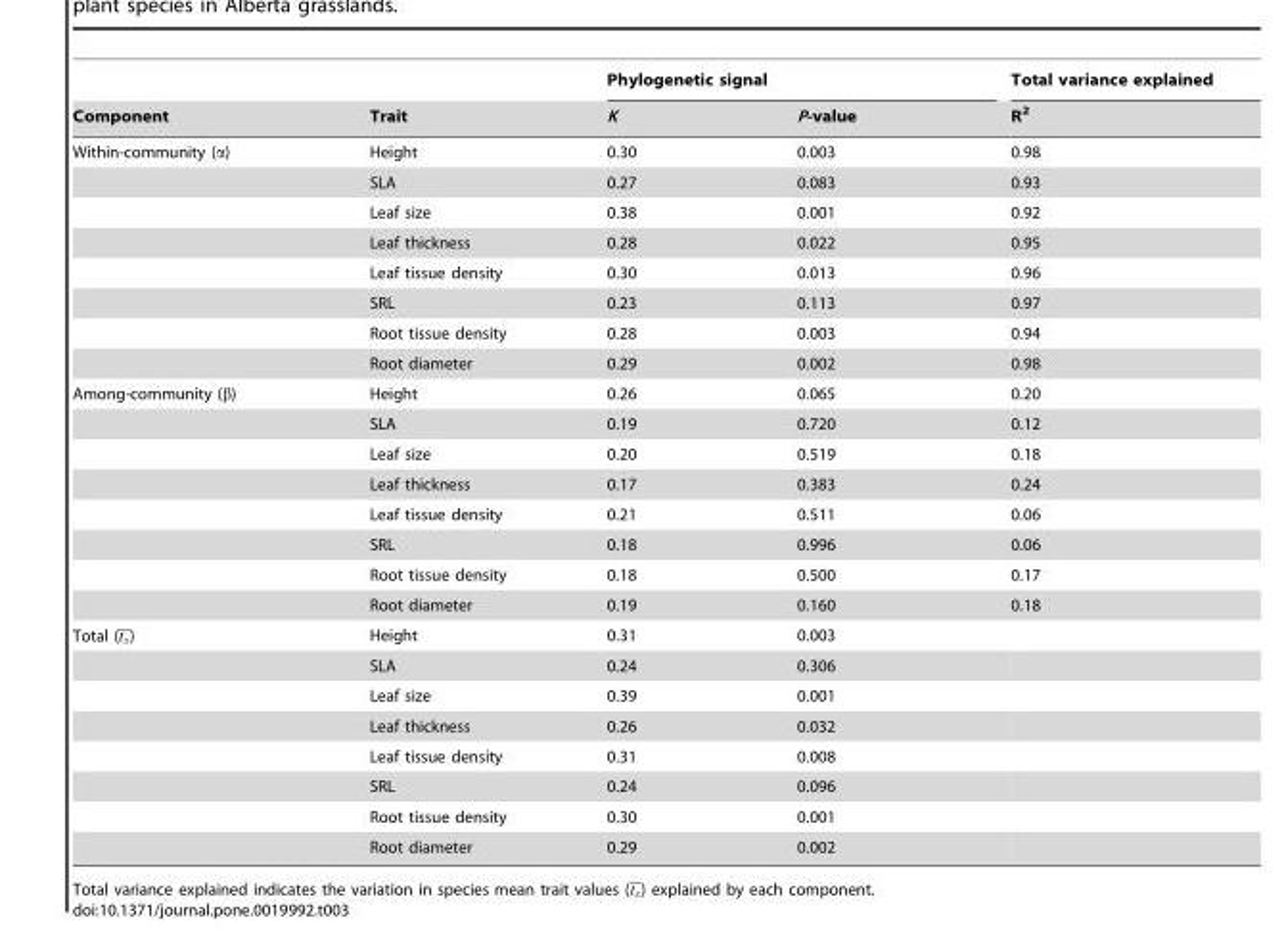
<table><thead><tr><td rowspan="2">Component</td><td rowspan="2">Trait</td><td colspan="2">Phylogenetic signal</td><td rowspan="2">Total variance explained R<sup>2</sup></td></tr><tr><td>K</td><td>P-value</td></tr></thead><tbody><tr><td rowspan="8">Within-community (α)</td><td>Height</td><td>0.30</td><td>0.003</td><td>0.98</td></tr><tr><td>SLA</td><td>0.27</td><td>0.083</td><td>0.93</td></tr><tr><td>Leaf size</td><td>0.38</td><td>0.001</td><td>0.92</td></tr><tr><td>Leaf thickness</td><td>0.28</td><td>0.022</td><td>0.95</td></tr><tr><td>Leaf tissue density</td><td>0.30</td><td>0.013</td><td>0.96</td></tr><tr><td>SRL</td><td>0.23</td><td>0.113</td><td>0.97</td></tr><tr><td>Root tissue density</td><td>0.28</td><td>0.003</td><td>0.94</td></tr><tr><td>Root diameter</td><td>0.29</td><td>0.002</td><td>0.98</td></tr><tr><td rowspan="8">Among-community (β)</td><td>Height</td><td>0.26</td><td>0.065</td><td>0.20</td></tr><tr><td>SLA</td><td>0.19</td><td>0.720</td><td>0.12</td></tr><tr><td>Leaf size</td><td>0.20</td><td>0.519</td><td>0.18</td></tr><tr><td>Leaf thickness</td><td>0.17</td><td>0.383</td><td>0.24</td></tr><tr><td>Leaf tissue density</td><td>0.21</td><td>0.511</td><td>0.06</td></tr><tr><td>SRL</td><td>0.18</td><td>0.996</td><td>0.06</td></tr><tr><td>Root tissue density</td><td>0.18</td><td>0.500</td><td>0.17</td></tr><tr><td>Root diameter</td><td>0.19</td><td>0.160</td><td>0.18</td></tr><tr><td rowspan="8">Total (ts)</td><td>Height</td><td>0.31</td><td>0.003</td><td></td></tr><tr><td>SLA</td><td>0.24</td><td>0.306</td><td></td></tr><tr><td>Leaf size</td><td>0.39</td><td>0.001</td><td></td></tr><tr><td>Leaf thickness</td><td>0.26</td><td>0.032</td><td></td></tr><tr><td>Leaf tissue density</td><td>0.31</td><td>0.008</td><td></td></tr><tr><td>SRL</td><td>0.24</td><td>0.096</td><td></td></tr><tr><td>Root tissue density</td><td>0.30</td><td>0.001</td><td></td></tr><tr><td>Root diameter</td><td>0.29</td><td>0.002</td><td></td></tr></tbody></table>